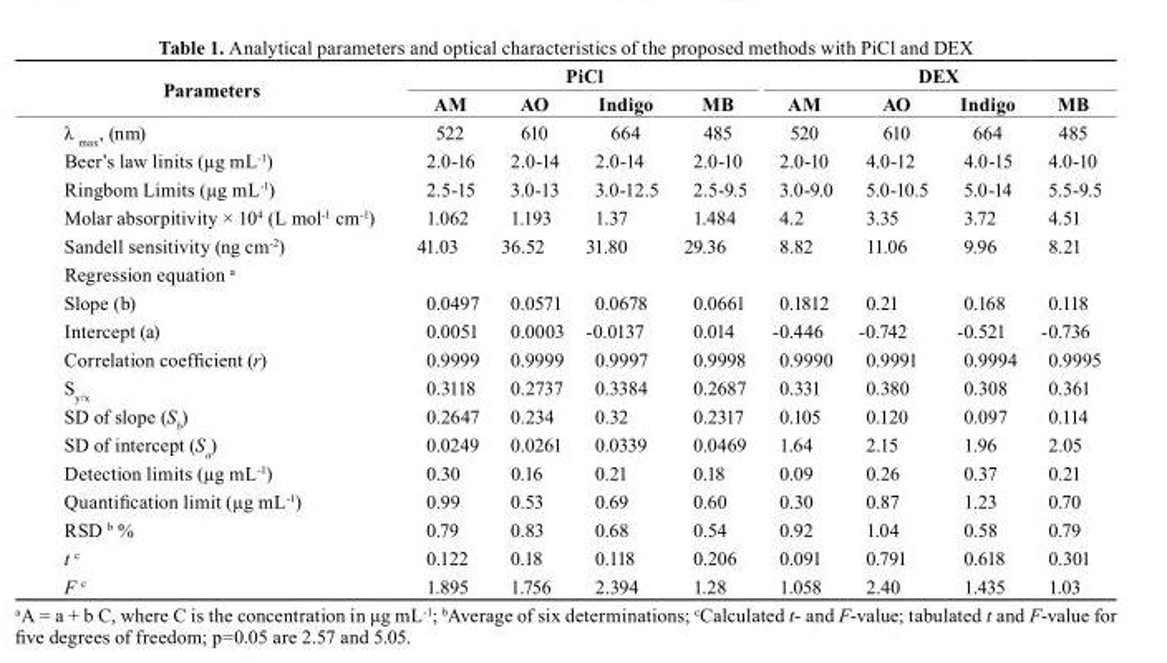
<table><thead><tr><td rowspan="2">Parameters</td><td colspan="4">Picl</td><td colspan="4">DEX</td></tr><tr><td>AM</td><td>AO</td><td>Indigo</td><td>Mb</td><td>AM</td><td>AO</td><td>Indigo</td><td>Mb</td></tr></thead><tbody><tr><td>λ <sub>max’</sub> (nm)</td><td>522</td><td>610</td><td>664</td><td>485</td><td>520</td><td>610</td><td>664</td><td>485</td></tr><tr><td>Beer’s law linits (µg mL<sup>-1</sup>)</td><td>2.0-16</td><td>2.0-14</td><td>2.0-14</td><td>2.0-10</td><td>2.0-10</td><td>4.0-12</td><td>4.0-15</td><td>4.0-10</td></tr><tr><td>Ringbom Limits (µg mL<sup>-1</sup>)</td><td>2.5-15</td><td>3.0-13</td><td>3.0-12.5</td><td>2.5-9.5</td><td>3.0-9.0</td><td>5.0-10.5</td><td>5.0-14</td><td>5.5-9.5</td></tr><tr><td>Molar absorpitivity × 10<sup>4</sup> (L mol<sup>-1</sup> cm<sup>-1</sup>)</td><td>1.062</td><td>1.193</td><td>1.37</td><td>1.484</td><td>4.2</td><td>3.35</td><td>3.72</td><td>4.51</td></tr><tr><td>Sandell sensitivity (ng cm<sup>-2</sup>)</td><td>41.03</td><td>36.52</td><td>31.80</td><td>29.36</td><td>8.82</td><td>11.06</td><td>9.96</td><td>8.21</td></tr><tr><td colspan="9">Regression equation <sup>a</sup></td></tr><tr><td>Slope (b)</td><td>0.0497</td><td>0.0571</td><td>0.0678</td><td>0.0661</td><td>0.1812</td><td>0.21</td><td>0.168</td><td>0.118</td></tr><tr><td>Intercept (a)</td><td>0.0051</td><td>0.0003</td><td>-0.0137</td><td>0.014</td><td>-0.446</td><td>-0.742</td><td>-0.521</td><td>-0.736</td></tr><tr><td>Correlation coefficient (r)</td><td>0.9999</td><td>0.9999</td><td>0.9997</td><td>0.9998</td><td>0.9990</td><td>0.9991</td><td>0.9994</td><td>0.9995</td></tr><tr><td>S<sub>y/x</sub></td><td>0.3118</td><td>0.2737</td><td>0.3384</td><td>0.2687</td><td>0.331</td><td>0.380</td><td>0.308</td><td>0.361</td></tr><tr><td>SD of slope (S<sub>b</sub>)</td><td>0.2647</td><td>0.234</td><td>0.32</td><td>0.2317</td><td>0.105</td><td>0.120</td><td>0.097</td><td>0.114</td></tr><tr><td>SD of intercept (S<sub>a</sub>)</td><td>0.0249</td><td>0.0261</td><td>0.0339</td><td>0.0469</td><td>1.64</td><td>2.15</td><td>1.96</td><td>2.05</td></tr><tr><td>Detection limits (µg mL<sup>-1</sup>)</td><td>0.30</td><td>0.16</td><td>0.21</td><td>0.18</td><td>0.09</td><td>0.26</td><td>0.37</td><td>0.21</td></tr><tr><td>Quantification limit (µg mL<sup>-1</sup>)</td><td>0.99</td><td>0.53</td><td>0.69</td><td>0.60</td><td>0.30</td><td>0.87</td><td>1.23</td><td>0.70</td></tr><tr><td>RSD <sup>b</sup> %</td><td>0.79</td><td>0.83</td><td>0.68</td><td>0.54</td><td>0.92</td><td>1.04</td><td>0.58</td><td>0.79</td></tr><tr><td>t <sup>c</sup></td><td>0.122</td><td>0.18</td><td>0.118</td><td>0.206</td><td>0.091</td><td>0.791</td><td>0.618</td><td>0.301</td></tr><tr><td>F <sup>c</sup></td><td>1.895</td><td>1.756</td><td>2.394</td><td>1.28</td><td>1.058</td><td>2.40</td><td>1.435</td><td>1.03</td></tr></tbody></table>